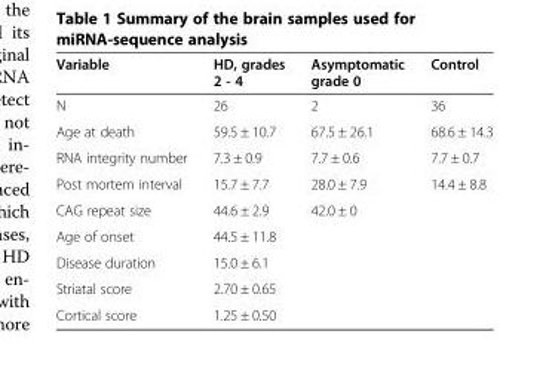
<table><thead><tr><td>Variable</td><td>HD, grades 2 - 4</td><td>Asymptomatic grade 0</td><td>Control</td></tr></thead><tbody><tr><td>N</td><td>26</td><td>2</td><td>36</td></tr><tr><td>Age at death</td><td>59.5 ± 10.7</td><td>67.5 ± 26.1</td><td>68.6 ± 14.3</td></tr><tr><td>RNA integrity number</td><td>7.3 ± 0.9</td><td>7.7 ± 0.6</td><td>7.7 ± 0.7</td></tr><tr><td>Post mortem interval</td><td>15.7 ± 7.7</td><td>28.0 ± 7.9</td><td>14.4 ± 8.8</td></tr><tr><td>CAG repeat size</td><td>44.6 ± 2.9</td><td>42.0 ± 0</td><td></td></tr><tr><td>Age of onset</td><td>44.5 ± 11.8</td><td></td><td></td></tr><tr><td>Disease duration</td><td>15.0 ± 6.1</td><td></td><td></td></tr><tr><td>Striatal score</td><td>2.70 ± 0.65</td><td></td><td></td></tr><tr><td>Cortical score</td><td>1.25 ± 0.50</td><td></td><td></td></tr></tbody></table>